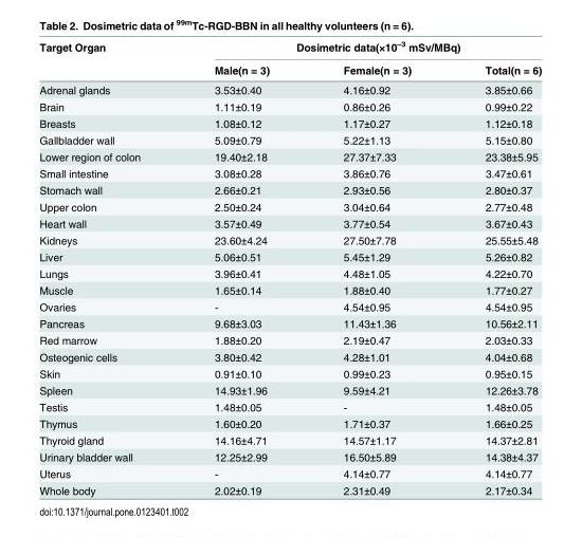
<table><thead><tr><td rowspan="2">Target Organ</td><td colspan="3">Dosimetric data(×10<sup>–3</sup> mSv/MBq)</td></tr><tr><td>Male(n = 3)</td><td>Female(n = 3)</td><td>Total(n = 6)</td></tr></thead><tbody><tr><td>Adrenal glands</td><td>3.53±0.40</td><td>4.16±0.92</td><td>3.85±0.66</td></tr><tr><td>Brain</td><td>1.11±0.19</td><td>0.86±0.26</td><td>0.99±0.22</td></tr><tr><td>Breasts</td><td>1.08±0.12</td><td>1.17±0.27</td><td>1.12±0.18</td></tr><tr><td>Gallbladder wall</td><td>5.09±0.79</td><td>5.22±1.13</td><td>5.15±0.80</td></tr><tr><td>Lower region of colon</td><td>19.40±2.18</td><td>27.37±7.33</td><td>23.38±5.95</td></tr><tr><td>Small intestine</td><td>3.08±0.28</td><td>3.86±0.76</td><td>3.47±0.61</td></tr><tr><td>Stomach wall</td><td>2.66±0.21</td><td>2.93±0.56</td><td>2.80±0.37</td></tr><tr><td>Upper colon</td><td>2.50±0.24</td><td>3.04±0.64</td><td>2.77±0.48</td></tr><tr><td>Heart wall</td><td>3.57±0.49</td><td>3.77±0.54</td><td>3.67±0.43</td></tr><tr><td>Kidneys</td><td>23.60±4.24</td><td>27.50±7.78</td><td>25.55±5.48</td></tr><tr><td>Liver</td><td>5.06±0.51</td><td>5.45±1.29</td><td>5.26±0.82</td></tr><tr><td>Lungs</td><td>3.96±0.41</td><td>4.48±1.05</td><td>4.22±0.70</td></tr><tr><td>Muscle</td><td>1.65±0.14</td><td>1.88±0.40</td><td>1.77±0.27</td></tr><tr><td>Ovaries</td><td>-</td><td>4.54±0.95</td><td>4.54±0.95</td></tr><tr><td>Pancreas</td><td>9.68±3.03</td><td>11.43±1.36</td><td>10.56±2.11</td></tr><tr><td>Red marrow</td><td>1.88±0.20</td><td>2.19±0.47</td><td>2.03±0.33</td></tr><tr><td>Osteogenic cells</td><td>3.80±0.42</td><td>4.28±1.01</td><td>4.04±0.68</td></tr><tr><td>Skin</td><td>0.91±0.10</td><td>0.99±0.23</td><td>0.95±0.15</td></tr><tr><td>Spleen</td><td>14.93±1.96</td><td>9.59±4.21</td><td>12.26±3.78</td></tr><tr><td>Testis</td><td>1.48±0.05</td><td>-</td><td>1.48±0.05</td></tr><tr><td>Thymus</td><td>1.60±0.20</td><td>1.71±0.37</td><td>1.66±0.25</td></tr><tr><td>Thyroid gland</td><td>14.16±4.71</td><td>14.57±1.17</td><td>14.37±2.81</td></tr><tr><td>Urinary bladder wall</td><td>12.25±2.99</td><td>16.50±5.89</td><td>14.38±4.37</td></tr><tr><td>Uterus</td><td>-</td><td>4.14±0.77</td><td>4.14±0.77</td></tr><tr><td>Whole body</td><td>2.02±0.19</td><td>2.31±0.49</td><td>2.17±0.34</td></tr></tbody></table>